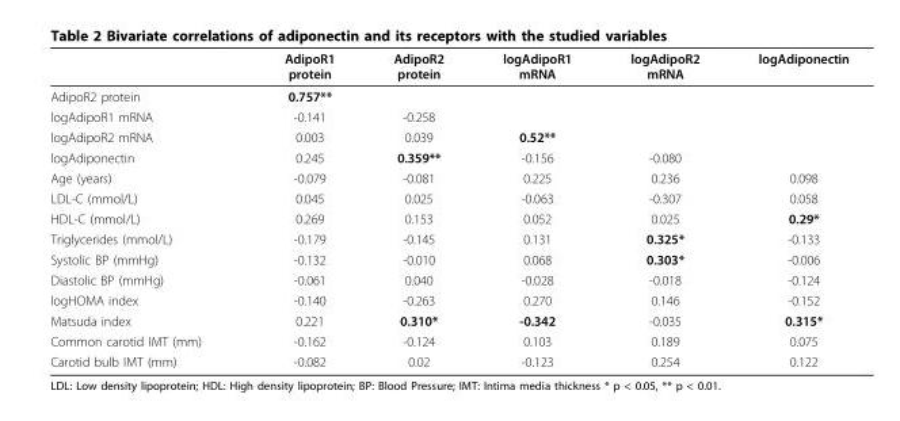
<table><thead><tr><td></td><td>AdipoR1 protein</td><td>AdipoR2 protein</td><td>logAdipoR1 mRNA</td><td>logAdipoR2 mRNA</td><td>logAdiponectin</td></tr></thead><tbody><tr><td>AdipoR2 protein</td><td>0.757**</td><td></td><td></td><td></td><td></td></tr><tr><td>logAdipoR1 mRNA</td><td>-0.141</td><td>-0.258</td><td></td><td></td><td></td></tr><tr><td>logAdipoR2 mRNA</td><td>0.003</td><td>0.039</td><td>0.52**</td><td></td><td></td></tr><tr><td>logAdiponectin</td><td>0.245</td><td>0.359**</td><td>-0.156</td><td>-0.080</td><td></td></tr><tr><td>Age (years)</td><td>-0.079</td><td>-0.081</td><td>0.225</td><td>0.236</td><td>0.098</td></tr><tr><td>LDL-C (mmol/L)</td><td>0.045</td><td>0.025</td><td>-0.063</td><td>-0.307</td><td>0.058</td></tr><tr><td>HDL-C (mmol/L)</td><td>0.269</td><td>0.153</td><td>0.052</td><td>0.025</td><td>0.29*</td></tr><tr><td>Triglycerides (mmol/L)</td><td>-0.179</td><td>-0.145</td><td>0.131</td><td>0.325*</td><td>-0.133</td></tr><tr><td>Systolic BP (mmHg)</td><td>-0.132</td><td>-0.010</td><td>0.068</td><td>0.303*</td><td>-0.006</td></tr><tr><td>Diastolic BP (mmHg)</td><td>-0.061</td><td>0.040</td><td>-0.028</td><td>-0.018</td><td>-0.124</td></tr><tr><td>logHOMA index</td><td>-0.140</td><td>-0.263</td><td>0.270</td><td>0.146</td><td>-0.152</td></tr><tr><td>Matsuda index</td><td>0.221</td><td>0.310*</td><td>-0.342</td><td>-0.035</td><td>0.315*</td></tr><tr><td>Common carotid IMT (mm)</td><td>-0.162</td><td>-0.124</td><td>0.103</td><td>0.189</td><td>0.075</td></tr><tr><td>Carotid bulb IMT (mm)</td><td>-0.082</td><td>0.02</td><td>-0.123</td><td>0.254</td><td>0.122</td></tr></tbody></table>